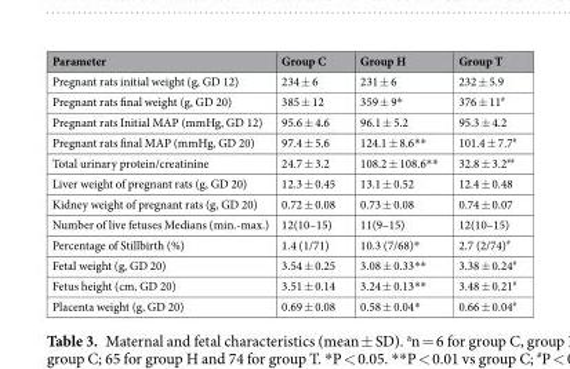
<table><thead><tr><td>Parameter</td><td>Group C</td><td>Group H</td><td>Group T</td></tr></thead><tbody><tr><td>Pregnant rats initial weight (g, GD 12)</td><td>234 ± 6</td><td>231 ± 6</td><td>232 ± 5.9</td></tr><tr><td>Pregnant rats final weight (g, GD 20)</td><td>385 ± 12</td><td>359 ± 9*</td><td>376 ± 11<sup>#</sup></td></tr><tr><td>Pregnant rats Initial MAP (mmHg, GD 12)</td><td>95.6 ± 4.6</td><td>96.1 ± 5.2</td><td>95.3 ± 4.2</td></tr><tr><td>Pregnant rats final MAP (mmHg, GD 20)</td><td>97.4 ± 5.6</td><td>124.1 ± 8.6**</td><td>101.4 ± 7.7<sup>#</sup></td></tr><tr><td>Total urinary protein/creatinine</td><td>24.7 ± 3.2</td><td>108.2 ± 108.6**</td><td>32.8 ± 3.2<sup>##</sup></td></tr><tr><td>Liver weight of pregnant rats (g, GD 20)</td><td>12.3 ± 0.45</td><td>13.1 ± 0.52</td><td>12.4 ± 0.48</td></tr><tr><td>Kidney weight of pregnant rats (g, GD 20)</td><td>0.72 ± 0.08</td><td>0.73 ± 0.08</td><td>0.74 ± 0.07</td></tr><tr><td>Number of live fetuses Medians (min.-max.)</td><td>12(10–15)</td><td>11(9–15)</td><td>12(10–15)</td></tr><tr><td>Percentage of Stillbirth (%)</td><td>1.4 (1/71)</td><td>10.3 (7/68)*</td><td>2.7 (2/74)<sup>#</sup></td></tr><tr><td>Fetal weight (g, GD 20)</td><td>3.54 ± 0.25</td><td>3.08 ± 0.33**</td><td>3.38 ± 0.24<sup>#</sup></td></tr><tr><td>Fetus height (cm, GD 20)</td><td>3.51 ± 0.14</td><td>3.24 ± 0.13**</td><td>3.48 ± 0.21<sup>#</sup></td></tr><tr><td>Placenta weight (g, GD 20)</td><td>0.69 ± 0.08</td><td>0.58 ± 0.04*</td><td>0.66 ± 0.04<sup>#</sup></td></tr></tbody></table>